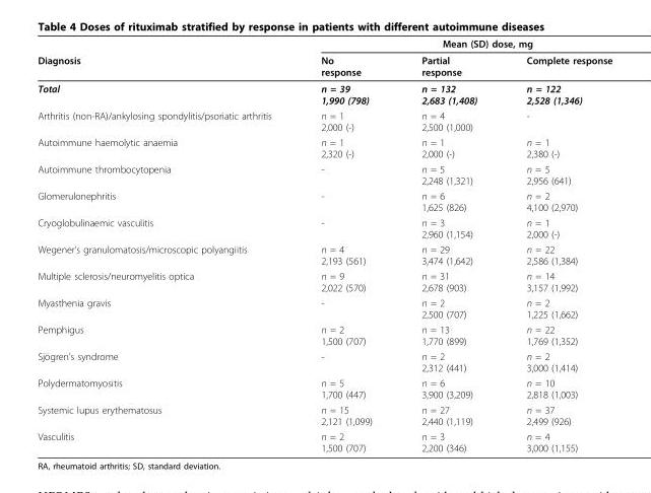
<table><thead><tr><td rowspan="2">Diagnosis</td><td colspan="3">Mean (SD) dose, mg</td></tr><tr><td>No response</td><td>Partial response</td><td>Complete response</td></tr></thead><tbody><tr><td>Total</td><td>n = 39 1,990 (798)</td><td>n = 132 2,683 (1,408)</td><td>n = 122 2,528 (1,346)</td></tr><tr><td>Arthritis (non-RA)/ankylosing spondylitis/psoriatic arthritis</td><td>n = 1 2,000 (-)</td><td>n = 4 2,500 (1,000)</td><td>-</td></tr><tr><td>Autoimmune haemolytic anaemia</td><td>n = 1 2,320 (-)</td><td>n = 1 2,000 (-)</td><td>n = 1 2,380 (-)</td></tr><tr><td>Autoimmune thrombocytopenia</td><td>-</td><td>n = 5 2,248 (1,321)</td><td>n = 5 2,956 (641)</td></tr><tr><td>Glomerulonephritis</td><td>-</td><td>n = 6 1,625 (826)</td><td>n = 2 4,100 (2,970)</td></tr><tr><td>Cryoglobulinaemic vasculitis</td><td>-</td><td>n = 3 2,960 (1,154)</td><td>n = 1 2,000 (-)</td></tr><tr><td>Wegener’s granulomatosis/microscopic polyangiitis</td><td>n = 4 2,193 (561)</td><td>n = 29 3,474 (1,642)</td><td>n = 22 2,586 (1,384)</td></tr><tr><td>Multiple sclerosis/neuromyelitis optica</td><td>n = 9 2,022 (570)</td><td>n = 31 2,678 (903)</td><td>n = 14 3,157 (1,992)</td></tr><tr><td>Myasthenia gravis</td><td>-</td><td>n = 2 2,500 (707)</td><td>n = 2 1,225 (1,662)</td></tr><tr><td>Pemphigus</td><td>n = 2 1,500 (707)</td><td>n = 13 1,770 (899)</td><td>n = 22 1,769 (1,352)</td></tr><tr><td>Sjögren’s syndrome</td><td>-</td><td>n = 2 2,312 (441)</td><td>n = 2 3,000 (1,414)</td></tr><tr><td>Polydermatomyositis</td><td>n = 5 1,700 (447)</td><td>n = 6 3,900 (3,209)</td><td>n = 10 2,818 (1,003)</td></tr><tr><td>Systemic lupus erythematosus</td><td>n = 15 2,121 (1,099)</td><td>n = 27 2,440 (1,119)</td><td>n = 37 2,499 (926)</td></tr><tr><td>Vasculitis</td><td>n = 2 1,500 (707)</td><td>n = 3 2,200 (346)</td><td>n = 4 3,000 (1,155)</td></tr></tbody></table>